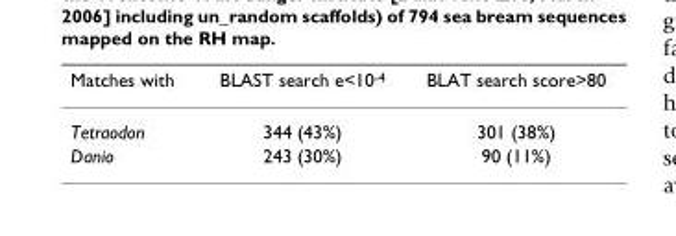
<table><thead><tr><td>Matches with</td><td>BLAST search e&lt;10-4</td><td>BLAT search score&gt;80</td></tr></thead><tbody><tr><td>Tetraodon</td><td>344 (43%)</td><td>301 (38%)</td></tr><tr><td>Danio</td><td>243 (30%)</td><td>90 (11%)</td></tr></tbody></table>